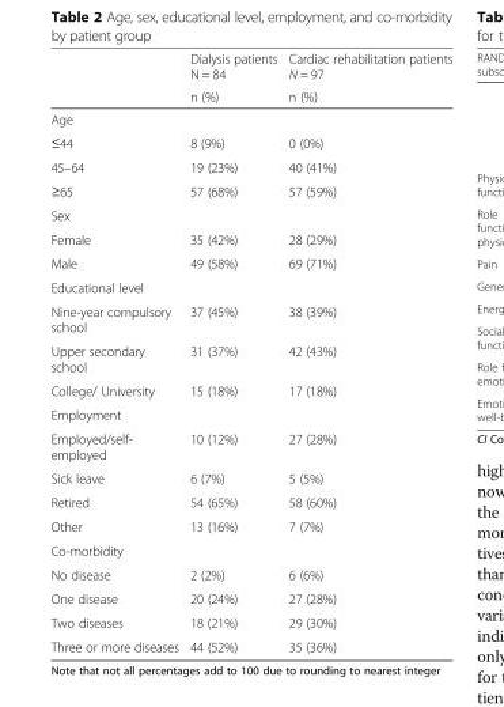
<table><thead><tr><td rowspan="2"></td><td rowspan="2">Dialysis patients N = 84 n (%)</td><td rowspan="2">Cardiac rehabilitation patients N = 97 n (%)</td></tr><tr></tr></thead><tbody><tr><td colspan="3">Age</td></tr><tr><td>≤44</td><td>8 (9%)</td><td>0 (0%)</td></tr><tr><td>45–64</td><td>19 (23%)</td><td>40 (41%)</td></tr><tr><td>≥65</td><td>57 (68%)</td><td>57 (59%)</td></tr><tr><td colspan="3">Sex</td></tr><tr><td>Female</td><td>35 (42%)</td><td>28 (29%)</td></tr><tr><td>Male</td><td>49 (58%)</td><td>69 (71%)</td></tr><tr><td colspan="3">Educational level</td></tr><tr><td>Nine-year compulsory school</td><td>37 (45%)</td><td>38 (39%)</td></tr><tr><td>Upper secondary school</td><td>31 (37%)</td><td>42 (43%)</td></tr><tr><td>College/ University</td><td>15 (18%)</td><td>17 (18%)</td></tr><tr><td colspan="3">Employment</td></tr><tr><td>Employed/self- employed</td><td>10 (12%)</td><td>27 (28%)</td></tr><tr><td>Sick leave</td><td>6 (7%)</td><td>5 (5%)</td></tr><tr><td>Retired</td><td>54 (65%)</td><td>58 (60%)</td></tr><tr><td>Other</td><td>13 (16%)</td><td>7 (7%)</td></tr><tr><td colspan="3">Co-morbidity</td></tr><tr><td>No disease</td><td>2 (2%)</td><td>6 (6%)</td></tr><tr><td>One disease</td><td>20 (24%)</td><td>27 (28%)</td></tr><tr><td>Two diseases</td><td>18 (21%)</td><td>29 (30%)</td></tr><tr><td>Three or more diseases</td><td>44 (52%)</td><td>35 (36%)</td></tr></tbody></table>